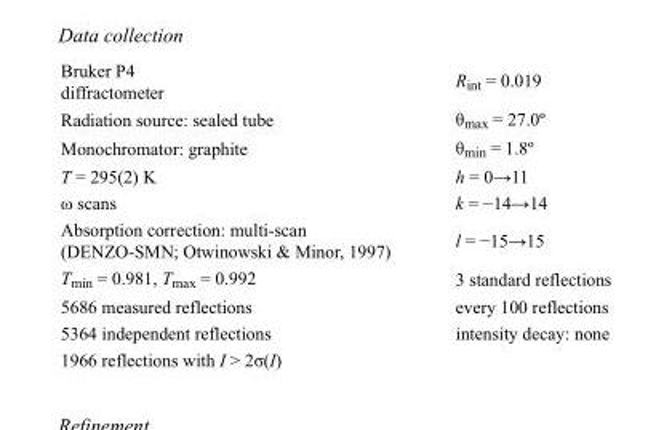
<table><tbody><tr><td>Bruker P4 diffractometer</td><td>R<sub>int</sub> = 0.019</td></tr><tr><td>Radiation source: sealed tube</td><td>θ<sub>max</sub> = 27.0º</td></tr><tr><td>Monochromator: graphite</td><td>θ<sub>min</sub> = 1.8º</td></tr><tr><td>T = 295(2) K</td><td>h = 0→11</td></tr><tr><td>ω scans</td><td>k = −14→14</td></tr><tr><td>Absorption correction: multi-scan (DENZO-SMN; Otwinowski &amp; Minor, 1997)</td><td>l = −15→15</td></tr><tr><td>T<sub>min</sub> = 0.981, T<sub>max</sub> = 0.992</td><td>3 standard reflections</td></tr><tr><td>5686 measured reflections</td><td>every 100 reflections</td></tr><tr><td>5364 independent reflections</td><td>intensity decay: none</td></tr><tr><td>1966 reflections with I &gt; 2σ(I)</td><td></td></tr></tbody></table>